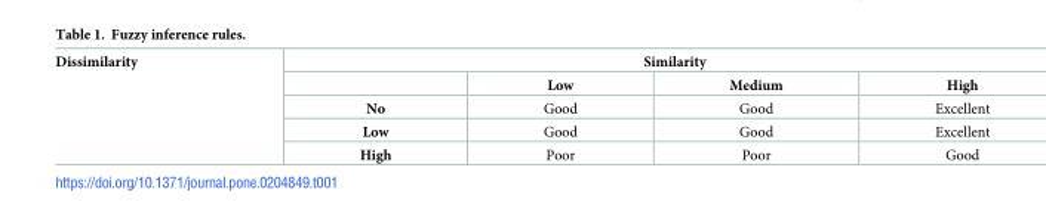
<table><tbody><tr><td rowspan="5">Dissimilarity</td><td colspan="4">Similarity</td></tr><tr><td></td><td>Low</td><td>Medium</td><td>High</td></tr><tr><td>No</td><td>Good</td><td>Good</td><td>Excellent</td></tr><tr><td>Low</td><td>Good</td><td>Good</td><td>Excellent</td></tr><tr><td>High</td><td>Poor</td><td>Poor</td><td>Good</td></tr></tbody></table>